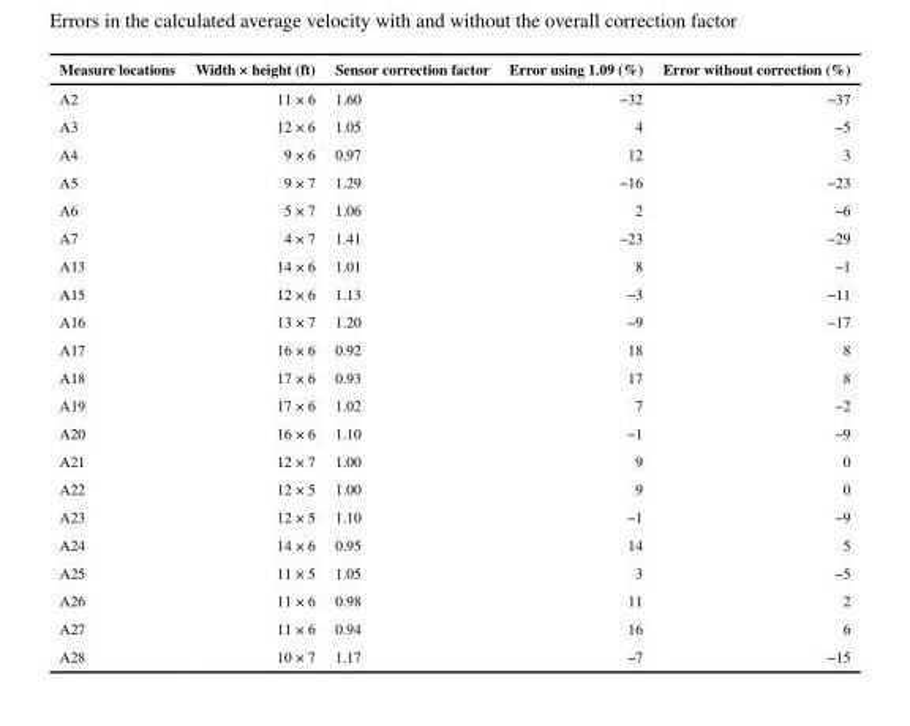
<table><thead><tr><td>Measure locations</td><td>Width × height (ft)</td><td>Sensor correction factor</td><td>Error using 1.09 (%)</td><td>Error without correction (%)</td></tr></thead><tbody><tr><td>A2</td><td>11 × 6</td><td>1.60</td><td>−32</td><td>−37</td></tr><tr><td>A3</td><td>12 × 6</td><td>1.05</td><td>4</td><td>−5</td></tr><tr><td>A4</td><td>9 × 6</td><td>0.97</td><td>12</td><td>3</td></tr><tr><td>A5</td><td>9 × 7</td><td>1.29</td><td>−16</td><td>−23</td></tr><tr><td>A6</td><td>5 × 7</td><td>1.06</td><td>2</td><td>−6</td></tr><tr><td>A7</td><td>4 × 7</td><td>1.41</td><td>−23</td><td>−29</td></tr><tr><td>A13</td><td>14 × 6</td><td>1.01</td><td>8</td><td>−1</td></tr><tr><td>A15</td><td>12 × 6</td><td>1.13</td><td>−3</td><td>−11</td></tr><tr><td>A16</td><td>13 × 7</td><td>1.20</td><td>−9</td><td>−17</td></tr><tr><td>A17</td><td>16 × 6</td><td>0.92</td><td>18</td><td>8</td></tr><tr><td>A18</td><td>17 × 6</td><td>0.93</td><td>17</td><td>8</td></tr><tr><td>A19</td><td>17 × 6</td><td>1.02</td><td>7</td><td>−2</td></tr><tr><td>A20</td><td>16 × 6</td><td>1.10</td><td>−1</td><td>−9</td></tr><tr><td>A21</td><td>12 × 7</td><td>1.00</td><td>9</td><td>0</td></tr><tr><td>A22</td><td>12 × 5</td><td>1.00</td><td>9</td><td>0</td></tr><tr><td>A23</td><td>12 × 5</td><td>1.10</td><td>−1</td><td>−9</td></tr><tr><td>A24</td><td>14 × 6</td><td>0.95</td><td>14</td><td>5</td></tr><tr><td>A25</td><td>11 × 5</td><td>1.05</td><td>3</td><td>−5</td></tr><tr><td>A26</td><td>11 × 6</td><td>0.98</td><td>11</td><td>2</td></tr><tr><td>A27</td><td>11 × 6</td><td>0.94</td><td>16</td><td>6</td></tr><tr><td>A28</td><td>10 × 7</td><td>1.17</td><td>−7</td><td>−15</td></tr></tbody></table>